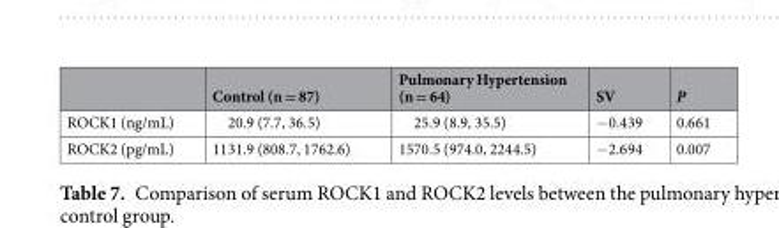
<table><thead><tr><td></td><td>Control (n = 87)</td><td>Pulmonary Hypertension (n = 64)</td><td>SV</td><td>P</td></tr></thead><tbody><tr><td>ROCK1 (ng/mL)</td><td>20.9 (7.7, 36.5)</td><td>25.9 (8.9, 35.5)</td><td>−0.439</td><td>0.661</td></tr><tr><td>ROCK2 (pg/mL)</td><td>1131.9 (808.7, 1762.6)</td><td>1570.5 (974.0, 2244.5)</td><td>−2.694</td><td>0.007</td></tr></tbody></table>